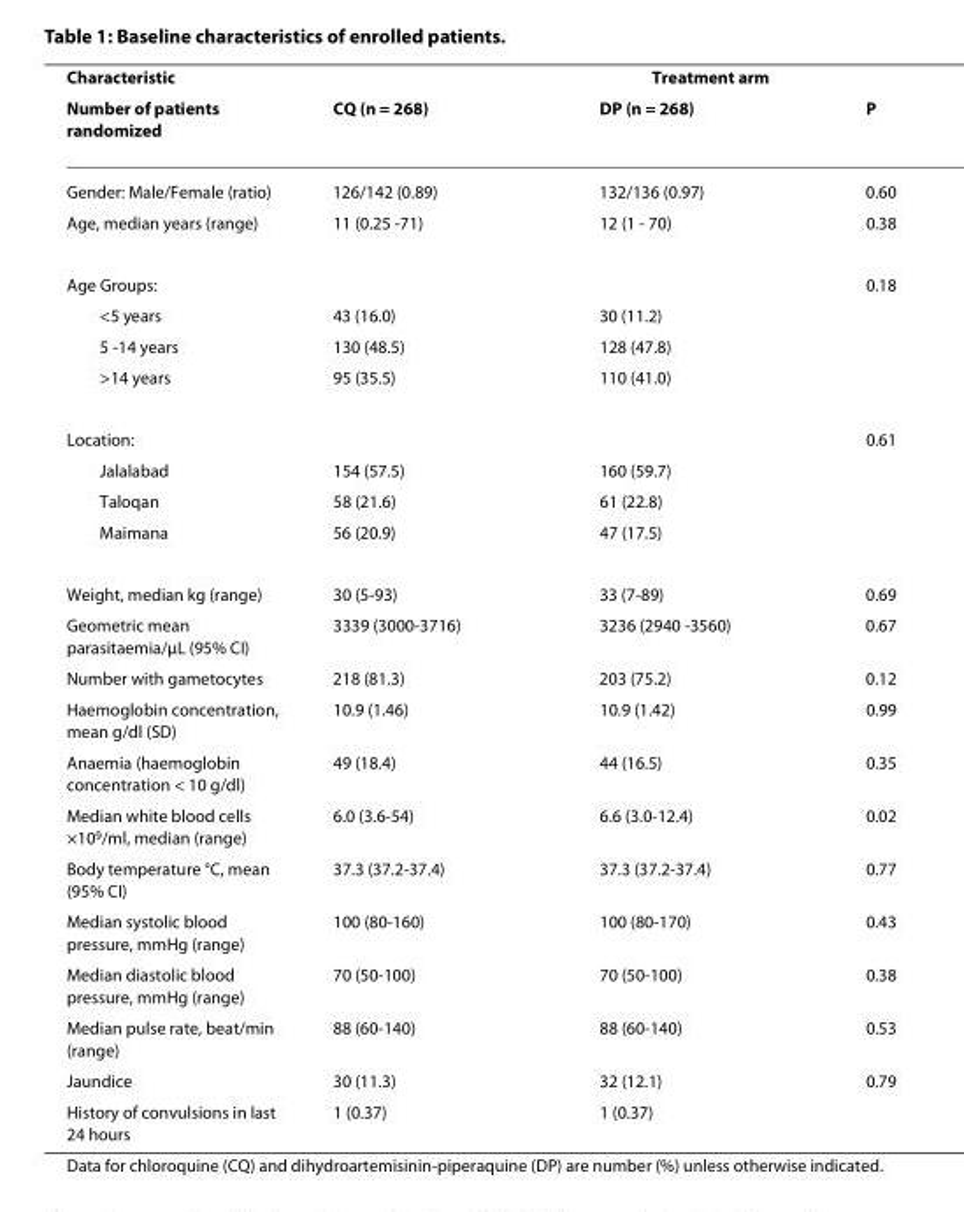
<table><thead><tr><td rowspan="2">Characteristic Number of patients randomized</td><td colspan="3">Treatment arm</td></tr><tr><td>CQ (n = 268)</td><td>DP (n = 268)</td><td>P</td></tr></thead><tbody><tr><td>Gender: Male/Female (ratio)</td><td>126/142 (0.89)</td><td>132/136 (0.97)</td><td>0.60</td></tr><tr><td>Age, median years (range)</td><td>11 (0.25 -71)</td><td>12 (1 - 70)</td><td>0.38</td></tr><tr><td>Age Groups:</td><td></td><td></td><td>0.18</td></tr><tr><td>&lt;5 years</td><td>43 (16.0)</td><td>30 (11.2)</td><td></td></tr><tr><td>5 -14 years</td><td>130 (48.5)</td><td>128 (47.8)</td><td></td></tr><tr><td>&gt;14 years</td><td>95 (35.5)</td><td>110 (41.0)</td><td></td></tr><tr><td>Location:</td><td></td><td></td><td>0.61</td></tr><tr><td>Jalalabad</td><td>154 (57.5)</td><td>160 (59.7)</td><td></td></tr><tr><td>Taloqan</td><td>58 (21.6)</td><td>61 (22.8)</td><td></td></tr><tr><td>Maimana</td><td>56 (20.9)</td><td>47 (17.5)</td><td></td></tr><tr><td>Weight, median kg (range)</td><td>30 (5-93)</td><td>33 (7-89)</td><td>0.69</td></tr><tr><td>Geometric mean parasitaemia/μL (95% CI)</td><td>3339 (3000-3716)</td><td>3236 (2940 -3560)</td><td>0.67</td></tr><tr><td>Number with gametocytes</td><td>218 (81.3)</td><td>203 (75.2)</td><td>0.12</td></tr><tr><td>Haemoglobin concentration, mean g/dl (SD)</td><td>10.9 (1.46)</td><td>10.9 (1.42)</td><td>0.99</td></tr><tr><td>Anaemia (haemoglobin concentration &lt; 10 g/dl)</td><td>49 (18.4)</td><td>44 (16.5)</td><td>0.35</td></tr><tr><td>Median white blood cells ×10<sup>9</sup>/ml, median (range)</td><td>6.0 (3.6-54)</td><td>6.6 (3.0-12.4)</td><td>0.02</td></tr><tr><td>Body temperature °C, mean (95% CI)</td><td>37.3 (37.2-37.4)</td><td>37.3 (37.2-37.4)</td><td>0.77</td></tr><tr><td>Median systolic blood pressure, mmHg (range)</td><td>100 (80-160)</td><td>100 (80-170)</td><td>0.43</td></tr><tr><td>Median diastolic blood pressure, mmHg (range)</td><td>70 (50-100)</td><td>70 (50-100)</td><td>0.38</td></tr><tr><td>Median pulse rate, beat/min (range)</td><td>88 (60-140)</td><td>88 (60-140)</td><td>0.53</td></tr><tr><td>Jaundice</td><td>30 (11.3)</td><td>32 (12.1)</td><td>0.79</td></tr><tr><td>History of convulsions in last 24 hours</td><td>1 (0.37)</td><td>1 (0.37)</td><td></td></tr></tbody></table>